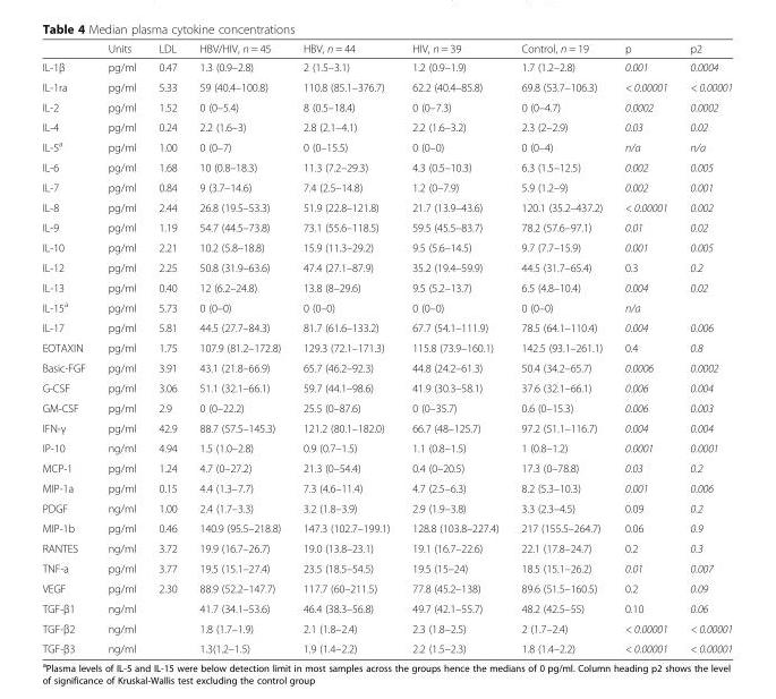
<table><thead><tr><td></td><td>Units</td><td>LDL</td><td>HBV/HIV, n = 45</td><td>HBV, n = 44</td><td>HIV, n = 39</td><td>Control, n = 19</td><td>p</td><td>p2</td></tr></thead><tbody><tr><td>IL-1β</td><td>pg/ml</td><td>0.47</td><td>1.3 (0.9–2.8)</td><td>2 (1.5–3.1)</td><td>1.2 (0.9–1.9)</td><td>1.7 (1.2–2.8)</td><td>0.001</td><td>0.0004</td></tr><tr><td>IL-1ra</td><td>pg/ml</td><td>5.33</td><td>59 (40.4–100.8)</td><td>110.8 (85.1–376.7)</td><td>62.2 (40.4–85.8)</td><td>69.8 (53.7–106.3)</td><td>&lt; 0.00001</td><td>&lt; 0.00001</td></tr><tr><td>IL-2</td><td>pg/ml</td><td>1.52</td><td>0 (0–5.4)</td><td>8 (0.5–18.4)</td><td>0 (0–7.3)</td><td>0 (0–4.7)</td><td>0.0002</td><td>0.0002</td></tr><tr><td>IL-4</td><td>pg/ml</td><td>0.24</td><td>2.2 (1.6–3)</td><td>2.8 (2.1–4.1)</td><td>2.2 (1.6–3.2)</td><td>2.3 (2–2.9)</td><td>0.03</td><td>0.02</td></tr><tr><td>IL-5<sup>a</sup></td><td>pg/ml</td><td>1.00</td><td>0 (0–7)</td><td>0 (0–15.5)</td><td>0 (0–0)</td><td>0 (0–4)</td><td>n/a</td><td>n/a</td></tr><tr><td>IL-6</td><td>pg/ml</td><td>1.68</td><td>10 (0.8–18.3)</td><td>11.3 (7.2–29.3)</td><td>4.3 (0.5–10.3)</td><td>6.3 (1.5–12.5)</td><td>0.002</td><td>0.005</td></tr><tr><td>IL-7</td><td>pg/ml</td><td>0.84</td><td>9 (3.7–14.6)</td><td>7.4 (2.5–14.8)</td><td>1.2 (0–7.9)</td><td>5.9 (1.2–9)</td><td>0.002</td><td>0.001</td></tr><tr><td>IL-8</td><td>pg/ml</td><td>2.44</td><td>26.8 (19.5–53.3)</td><td>51.9 (22.8–121.8)</td><td>21.7 (13.9–43.6)</td><td>120.1 (35.2–437.2)</td><td>&lt; 0.00001</td><td>0.002</td></tr><tr><td>IL-9</td><td>pg/ml</td><td>1.19</td><td>54.7 (44.5–73.8)</td><td>73.1 (55.6–118.5)</td><td>59.5 (45.5–83.7)</td><td>78.2 (57.6–97.1)</td><td>0.01</td><td>0.02</td></tr><tr><td>IL-10</td><td>pg/ml</td><td>2.21</td><td>10.2 (5.8–18.8)</td><td>15.9 (11.3–29.2)</td><td>9.5 (5.6–14.5)</td><td>9.7 (7.7–15.9)</td><td>0.001</td><td>0.005</td></tr><tr><td>IL-12</td><td>pg/ml</td><td>2.25</td><td>50.8 (31.9–63.6)</td><td>47.4 (27.1–87.9)</td><td>35.2 (19.4–59.9)</td><td>44.5 (31.7–65.4)</td><td>0.3</td><td>0.2</td></tr><tr><td>IL-13</td><td>pg/ml</td><td>0.40</td><td>12 (6.2–24.8)</td><td>13.8 (8–29.6)</td><td>9.5 (5.2–13.7)</td><td>6.5 (4.8–10.4)</td><td>0.004</td><td>0.02</td></tr><tr><td>IL-15<sup>a</sup></td><td>pg/ml</td><td>5.73</td><td>0 (0–0)</td><td>0 (0–0)</td><td>0 (0–0)</td><td>0 (0–0)</td><td>n/a</td><td></td></tr><tr><td>IL-17</td><td>pg/ml</td><td>5.81</td><td>44.5 (27.7–84.3)</td><td>81.7 (61.6–133.2)</td><td>67.7 (54.1–111.9)</td><td>78.5 (64.1–110.4)</td><td>0.004</td><td>0.006</td></tr><tr><td>EOTAXIN</td><td>pg/ml</td><td>1.75</td><td>107.9 (81.2–172.8)</td><td>129.3 (72.1–171.3)</td><td>115.8 (73.9–160.1)</td><td>142.5 (93.1–261.1)</td><td>0.4</td><td>0.8</td></tr><tr><td>Basic-FGF</td><td>pg/ml</td><td>3.91</td><td>43.1 (21.8–66.9)</td><td>65.7 (46.2–92.3)</td><td>44.8 (24.2–61.3)</td><td>50.4 (34.2–65.7)</td><td>0.0006</td><td>0.0002</td></tr><tr><td>G-CSF</td><td>pg/ml</td><td>3.06</td><td>51.1 (32.1–66.1)</td><td>59.7 (44.1–98.6)</td><td>41.9 (30.3–58.1)</td><td>37.6 (32.1–66.1)</td><td>0.006</td><td>0.004</td></tr><tr><td>GM-CSF</td><td>pg/ml</td><td>2.9</td><td>0 (0–22.2)</td><td>25.5 (0–87.6)</td><td>0 (0–35.7)</td><td>0.6 (0–15.3)</td><td>0.006</td><td>0.003</td></tr><tr><td>IFN-γ</td><td>pg/ml</td><td>42.9</td><td>88.7 (57.5–145.3)</td><td>121.2 (80.1–182.0)</td><td>66.7 (48–125.7)</td><td>97.2 (51.1–116.7)</td><td>0.004</td><td>0.004</td></tr><tr><td>IP-10</td><td>ng/ml</td><td>4.94</td><td>1.5 (1.0–2.8)</td><td>0.9 (0.7–1.5)</td><td>1.1 (0.8–1.5)</td><td>1 (0.8–1.2)</td><td>0.0001</td><td>0.0001</td></tr><tr><td>MCP-1</td><td>pg/ml</td><td>1.24</td><td>4.7 (0–27.2)</td><td>21.3 (0–54.4)</td><td>0.4 (0–20.5)</td><td>17.3 (0–78.8)</td><td>0.03</td><td>0.2</td></tr><tr><td>MIP-1a</td><td>pg/ml</td><td>0.15</td><td>4.4 (1.3–7.7)</td><td>7.3 (4.6–11.4)</td><td>4.7 (2.5–6.3)</td><td>8.2 (5.3–10.3)</td><td>0.001</td><td>0.006</td></tr><tr><td>PDGF</td><td>ng/ml</td><td>1.00</td><td>2.4 (1.7–3.3)</td><td>3.2 (1.8–3.9)</td><td>2.9 (1.9–3.8)</td><td>3.3 (2.3–4.5)</td><td>0.09</td><td>0.2</td></tr><tr><td>MIP-1b</td><td>pg/ml</td><td>0.46</td><td>140.9 (95.5–218.8)</td><td>147.3 (102.7–199.1)</td><td>128.8 (103.8–227.4)</td><td>217 (155.5–264.7)</td><td>0.06</td><td>0.9</td></tr><tr><td>RANTES</td><td>ng/ml</td><td>3.72</td><td>19.9 (16.7–26.7)</td><td>19.0 (13.8–23.1)</td><td>19.1 (16.7–22.6)</td><td>22.1 (17.8–24.7)</td><td>0.2</td><td>0.3</td></tr><tr><td>TNF-a</td><td>pg/ml</td><td>3.77</td><td>19.5 (15.1–27.4)</td><td>23.5 (18.5–54.5)</td><td>19.5 (15–24)</td><td>18.5 (15.1–26.2)</td><td>0.01</td><td>0.007</td></tr><tr><td>VEGF</td><td>pg/ml</td><td>2.30</td><td>88.9 (52.2–147.7)</td><td>117.7 (60–211.5)</td><td>77.8 (45.2–138)</td><td>89.6 (51.5–160.5)</td><td>0.2</td><td>0.09</td></tr><tr><td>TGF-β1</td><td>ng/ml</td><td></td><td>41.7 (34.1–53.6)</td><td>46.4 (38.3–56.8)</td><td>49.7 (42.1–55.7)</td><td>48.2 (42.5–55)</td><td>0.10</td><td>0.06</td></tr><tr><td>TGF-β2</td><td>ng/ml</td><td></td><td>1.8 (1.7–1.9)</td><td>2.1 (1.8–2.4)</td><td>2.3 (1.8–2.5)</td><td>2 (1.7–2.4)</td><td>&lt; 0.00001</td><td>&lt; 0.00001</td></tr><tr><td>TGF-β3</td><td>ng/ml</td><td></td><td>1.3(1.2–1.5)</td><td>1.9 (1.4–2.2)</td><td>2.2 (1.5–2.3)</td><td>1.8 (1.4–2.2)</td><td>&lt; 0.00001</td><td>&lt; 0.00001</td></tr></tbody></table>